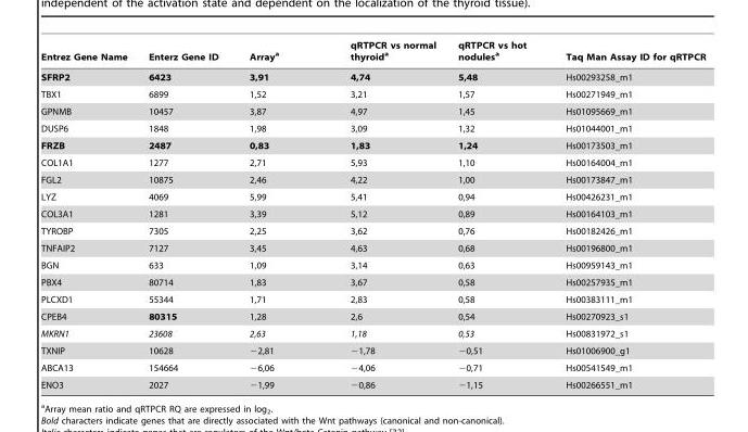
<table><thead><tr><td>Entrez Gene Name</td><td>Enterz Gene ID</td><td>Array<sup>a</sup></td><td>qRTPCR vs normal thyroid<sup>a</sup></td><td>qRTPCR vs hot nodules<sup>a</sup></td><td>Taq Man Assay ID for qRTPCR</td></tr></thead><tbody><tr><td>SFRP2</td><td>6423</td><td>3,91</td><td>4,74</td><td>5,48</td><td>Hs00293258_m1</td></tr><tr><td>TBX1</td><td>6899</td><td>1,52</td><td>3,21</td><td>1,57</td><td>Hs00271949_m1</td></tr><tr><td>GPNMB</td><td>10457</td><td>3,87</td><td>4,97</td><td>1,45</td><td>Hs01095669_m1</td></tr><tr><td>DUSP6</td><td>1848</td><td>1,98</td><td>3,09</td><td>1,32</td><td>Hs01044001_m1</td></tr><tr><td>FRZB</td><td>2487</td><td>0,83</td><td>1,83</td><td>1,24</td><td>Hs00173503_m1</td></tr><tr><td>COL1A1</td><td>1277</td><td>2,71</td><td>5,93</td><td>1,10</td><td>Hs00164004_m1</td></tr><tr><td>FGL2</td><td>10875</td><td>2,46</td><td>4,22</td><td>1,00</td><td>Hs00173847_m1</td></tr><tr><td>LYZ</td><td>4069</td><td>5,99</td><td>5,41</td><td>0,94</td><td>Hs00426231_m1</td></tr><tr><td>COL3A1</td><td>1281</td><td>3,39</td><td>5,12</td><td>0,89</td><td>Hs00164103_m1</td></tr><tr><td>TYROBP</td><td>7305</td><td>2,25</td><td>3,62</td><td>0,76</td><td>Hs00182426_m1</td></tr><tr><td>TNFAIP2</td><td>7127</td><td>3,45</td><td>4,63</td><td>0,68</td><td>Hs00196800_m1</td></tr><tr><td>BGN</td><td>633</td><td>1,09</td><td>3,14</td><td>0,63</td><td>Hs00959143_m1</td></tr><tr><td>PBX4</td><td>80714</td><td>1,83</td><td>3,67</td><td>0,58</td><td>Hs00257935_m1</td></tr><tr><td>PLCXD1</td><td>55344</td><td>1,71</td><td>2,83</td><td>0,58</td><td>Hs00383111_m1</td></tr><tr><td>CPEB4</td><td>80315</td><td>1,28</td><td>2,6</td><td>0,54</td><td>Hs00270923_s1</td></tr><tr><td>MKRN1</td><td>23608</td><td>2,63</td><td>1,18</td><td>0,53</td><td>Hs00831972_s1</td></tr><tr><td>TXNIP</td><td>10628</td><td>−2,81</td><td>−1,78</td><td>−0,51</td><td>Hs01006900_g1</td></tr><tr><td>ABCA13</td><td>154664</td><td>−6,06</td><td>−4,06</td><td>−0,71</td><td>Hs00541549_m1</td></tr><tr><td>ENO3</td><td>2027</td><td>−1,99</td><td>−0,86</td><td>−1,15</td><td>Hs00266551_m1</td></tr></tbody></table>